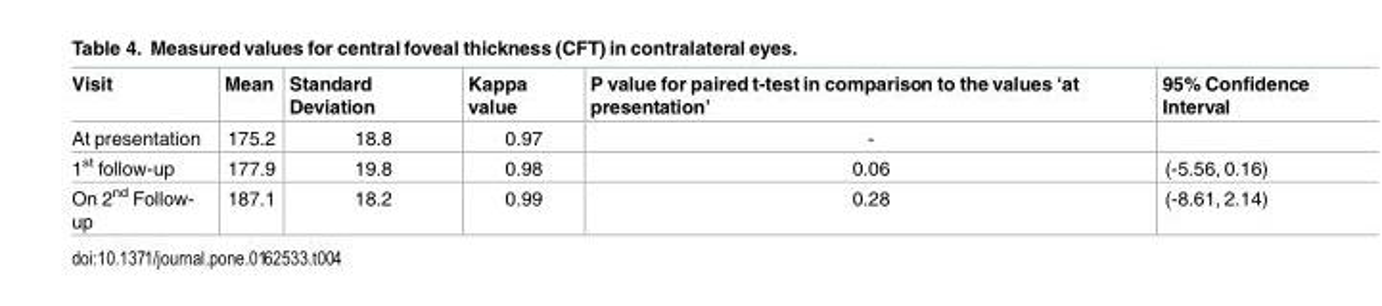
<table><thead><tr><td>Visit</td><td>Mean</td><td>Standard Deviation</td><td>Kappa value</td><td>P value for paired t-test in comparison to the values ‘at presentation’</td><td>95% Confidence Interval</td></tr></thead><tbody><tr><td>At presentation</td><td>175.2</td><td>18.8</td><td>0.97</td><td>-</td><td></td></tr><tr><td>1<sup>st</sup> follow-up</td><td>177.9</td><td>19.8</td><td>0.98</td><td>0.06</td><td>(-5.56, 0.16)</td></tr><tr><td>On 2<sup>nd</sup> Follow- up</td><td>187.1</td><td>18.2</td><td>0.99</td><td>0.28</td><td>(-8.61, 2.14)</td></tr></tbody></table>